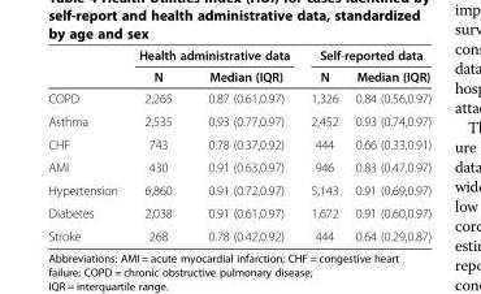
<table><thead><tr><td rowspan="2"></td><td colspan="2">Health administrative data</td><td colspan="2">Self-reported data</td></tr><tr><td>N</td><td>Median (IQR)</td><td>N</td><td>Median (IQR)</td></tr></thead><tbody><tr><td>COPD</td><td>2,265</td><td>0.87 (0.61,0.97)</td><td>1,326</td><td>0.84 (0.56,0.97)</td></tr><tr><td>Asthma</td><td>2,535</td><td>0.93 (0.77,0.97)</td><td>2,452</td><td>0.93 (0.74,0.97)</td></tr><tr><td>CHF</td><td>743</td><td>0.78 (0.37,0.92)</td><td>444</td><td>0.66 (0.33,0.91)</td></tr><tr><td>AMI</td><td>430</td><td>0.91 (0.63,0.97)</td><td>946</td><td>0.83 (0.47,0.97)</td></tr><tr><td>Hypertension</td><td>6,860</td><td>0.91 (0.72,0.97)</td><td>5,143</td><td>0.91 (0.69,0.97)</td></tr><tr><td>Diabetes</td><td>2,038</td><td>0.91 (0.61,0.97)</td><td>1,672</td><td>0.91 (0.60,0.97)</td></tr><tr><td>Stroke</td><td>268</td><td>0.78 (0.42,0.92)</td><td>444</td><td>0.64 (0.29,0.87)</td></tr></tbody></table>